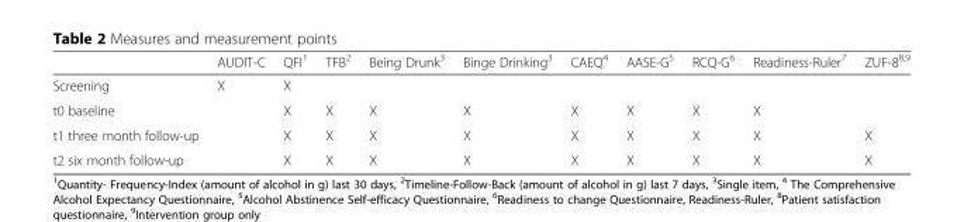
<table><thead><tr><td></td><td>AUDIT-C</td><td>QFI<sup>1</sup></td><td>TFB<sup>2</sup></td><td>Being Drunk<sup>3</sup></td><td>Binge Drinking<sup>3</sup></td><td>CAEQ<sup>4</sup></td><td>AASE-G<sup>5</sup></td><td>RCQ-G<sup>6</sup></td><td>Readiness-Ruler<sup>7</sup></td><td>ZUF-8<sup>8,9</sup></td></tr></thead><tbody><tr><td>Screening</td><td>X</td><td>X</td><td></td><td></td><td></td><td></td><td></td><td></td><td></td><td></td></tr><tr><td>t0 baseline</td><td></td><td>X</td><td>X</td><td>X</td><td>X</td><td>X</td><td>X</td><td>X</td><td>X</td><td></td></tr><tr><td>t1 three month follow-up</td><td></td><td>X</td><td>X</td><td>X</td><td>X</td><td>X</td><td>X</td><td>X</td><td>X</td><td>X</td></tr><tr><td>t2 six month follow-up</td><td></td><td>X</td><td>X</td><td>X</td><td>X</td><td>X</td><td>X</td><td>X</td><td>X</td><td>X</td></tr></tbody></table>